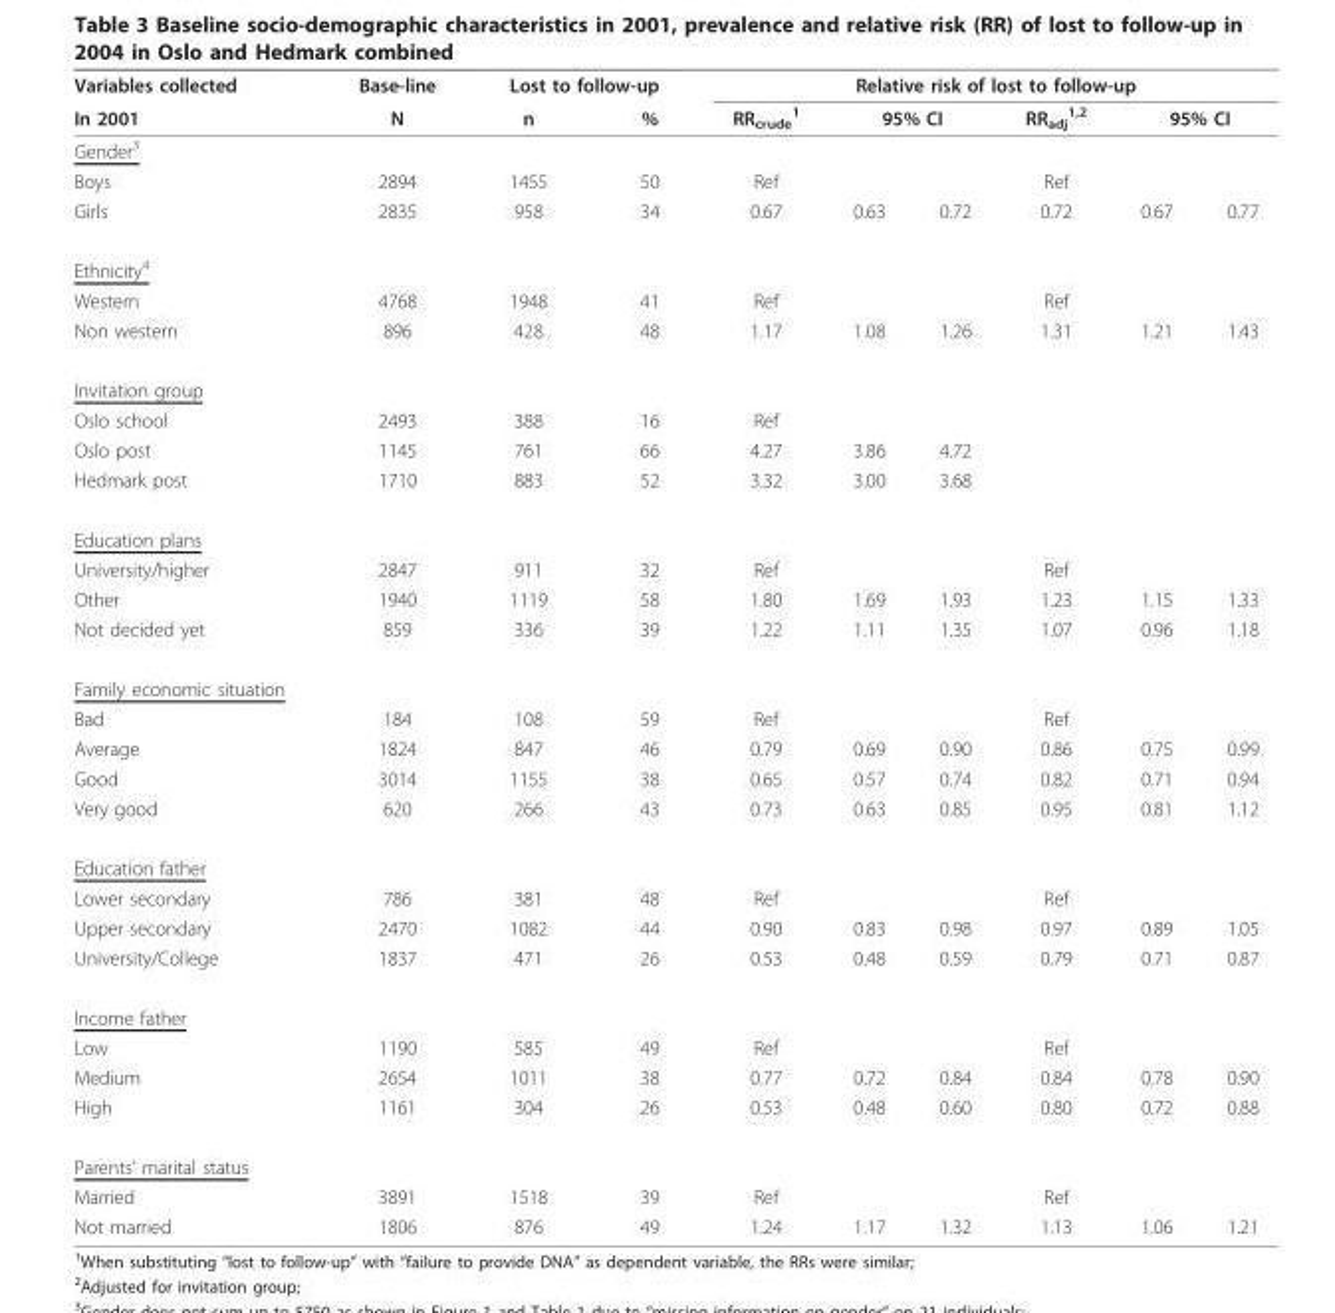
<table><thead><tr><td rowspan="3">Variables collected In 2001 Gender<sup>3</sup></td><td rowspan="3">Base-line N</td><td colspan="2">Lost to follow-up</td><td colspan="6">Relative risk of lost to follow-up</td></tr><tr><td rowspan="2">n</td><td rowspan="2">%</td><td rowspan="2">RR<sub>crude</sub> <sup>1</sup></td><td colspan="2">95% CI</td><td rowspan="2">RR<sub>adj</sub> <sup>1,2</sup></td><td colspan="2">95% CI</td></tr><tr><td></td><td></td><td></td><td></td></tr></thead><tbody><tr><td>Boys</td><td>2894</td><td>1455</td><td>50</td><td>Ref</td><td></td><td></td><td>Ref</td><td></td><td></td></tr><tr><td>Girls</td><td>2835</td><td>958</td><td>34</td><td>0.67</td><td>0.63</td><td>0.72</td><td>0.72</td><td>0.67</td><td>0.77</td></tr><tr><td colspan="10">Ethnicity<sup>4</sup></td></tr><tr><td>Western</td><td>4768</td><td>1948</td><td>41</td><td>Ref</td><td></td><td></td><td>Ref</td><td></td><td></td></tr><tr><td>Non western</td><td>896</td><td>428</td><td>48</td><td>1.17</td><td>1.08</td><td>1.26</td><td>1.31</td><td>1.21</td><td>1.43</td></tr><tr><td colspan="10">Invitation group</td></tr><tr><td>Oslo school</td><td>2493</td><td>388</td><td>16</td><td>Ref</td><td></td><td></td><td></td><td></td><td></td></tr><tr><td>Oslo post</td><td>1145</td><td>761</td><td>66</td><td>4.27</td><td>3.86</td><td>4.72</td><td></td><td></td><td></td></tr><tr><td>Hedmark post</td><td>1710</td><td>883</td><td>52</td><td>3.32</td><td>3.00</td><td>3.68</td><td></td><td></td><td></td></tr><tr><td colspan="10">Education plans</td></tr><tr><td>University/higher</td><td>2847</td><td>911</td><td>32</td><td>Ref</td><td></td><td></td><td>Ref</td><td></td><td></td></tr><tr><td>Other</td><td>1940</td><td>1119</td><td>58</td><td>1.80</td><td>1.69</td><td>1.93</td><td>1.23</td><td>1.15</td><td>1.33</td></tr><tr><td>Not decided yet</td><td>859</td><td>336</td><td>39</td><td>1.22</td><td>1.11</td><td>1.35</td><td>1.07</td><td>0.96</td><td>1.18</td></tr><tr><td colspan="10">Family economic situation</td></tr><tr><td>Bad</td><td>184</td><td>108</td><td>59</td><td>Ref</td><td></td><td></td><td>Ref</td><td></td><td></td></tr><tr><td>Average</td><td>1824</td><td>847</td><td>46</td><td>0.79</td><td>0.69</td><td>0.90</td><td>0.86</td><td>0.75</td><td>0.99</td></tr><tr><td>Good</td><td>3014</td><td>1155</td><td>38</td><td>0.65</td><td>0.57</td><td>0.74</td><td>0.82</td><td>0.71</td><td>0.94</td></tr><tr><td>Very good</td><td>620</td><td>266</td><td>43</td><td>0.73</td><td>0.63</td><td>0.85</td><td>0.95</td><td>0.81</td><td>1.12</td></tr><tr><td colspan="10">Education father</td></tr><tr><td>Lower secondary</td><td>786</td><td>381</td><td>48</td><td>Ref</td><td></td><td></td><td>Ref</td><td></td><td></td></tr><tr><td>Upper secondary</td><td>2470</td><td>1082</td><td>44</td><td>0.90</td><td>0.83</td><td>0.98</td><td>0.97</td><td>0.89</td><td>1.05</td></tr><tr><td>University/College</td><td>1837</td><td>471</td><td>26</td><td>0.53</td><td>0.48</td><td>0.59</td><td>0.79</td><td>0.71</td><td>0.87</td></tr><tr><td colspan="10">Income father</td></tr><tr><td>Low</td><td>1190</td><td>585</td><td>49</td><td>Ref</td><td></td><td></td><td>Ref</td><td></td><td></td></tr><tr><td>Medium</td><td>2654</td><td>1011</td><td>38</td><td>0.77</td><td>0.72</td><td>0.84</td><td>0.84</td><td>0.78</td><td>0.90</td></tr><tr><td>High</td><td>1161</td><td>304</td><td>26</td><td>0.53</td><td>0.48</td><td>0.60</td><td>0.80</td><td>0.72</td><td>0.88</td></tr><tr><td colspan="10">Parents’ marital status</td></tr><tr><td>Married</td><td>3891</td><td>1518</td><td>39</td><td>Ref</td><td></td><td></td><td>Ref</td><td></td><td></td></tr><tr><td>Not married</td><td>1806</td><td>876</td><td>49</td><td>1.24</td><td>1.17</td><td>1.32</td><td>1.13</td><td>1.06</td><td>1.21</td></tr></tbody></table>